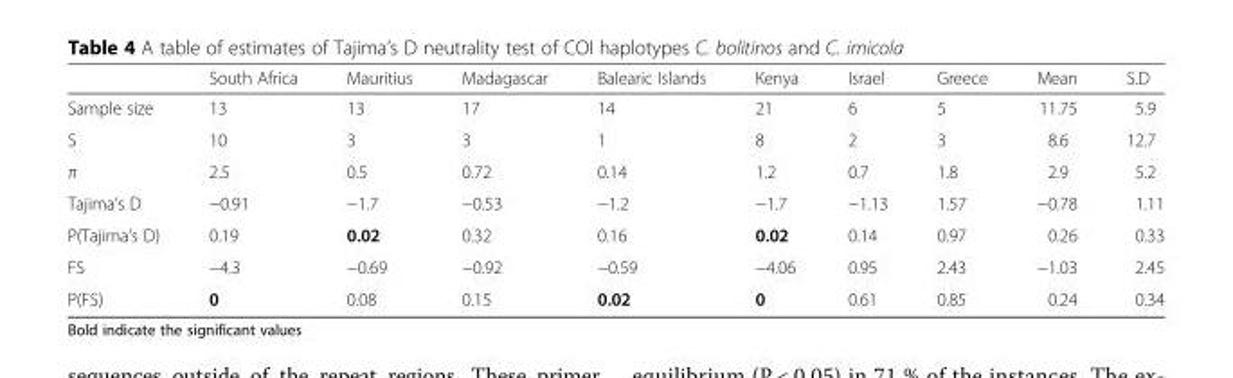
<table><thead><tr><td></td><td>South Africa</td><td>Mauritius</td><td>Madagascar</td><td>Balearic Islands</td><td>Kenya</td><td>Israel</td><td>Greece</td><td>Mean</td><td>S.D</td></tr></thead><tbody><tr><td>Sample size</td><td>13</td><td>13</td><td>17</td><td>14</td><td>21</td><td>6</td><td>5</td><td>11.75</td><td>5.9</td></tr><tr><td>S</td><td>10</td><td>3</td><td>3</td><td>1</td><td>8</td><td>2</td><td>3</td><td>8.6</td><td>12.7</td></tr><tr><td>π</td><td>2.5</td><td>0.5</td><td>0.72</td><td>0.14</td><td>1.2</td><td>0.7</td><td>1.8</td><td>2.9</td><td>5.2</td></tr><tr><td>Tajima’s D</td><td>−0.91</td><td>−1.7</td><td>−0.53</td><td>−1.2</td><td>−1.7</td><td>−1.13</td><td>1.57</td><td>−0.78</td><td>1.11</td></tr><tr><td>P(Tajima’s D)</td><td>0.19</td><td>0.02</td><td>0.32</td><td>0.16</td><td>0.02</td><td>0.14</td><td>0.97</td><td>0.26</td><td>0.33</td></tr><tr><td>FS</td><td>−4.3</td><td>−0.69</td><td>−0.92</td><td>−0.59</td><td>−4.06</td><td>0.95</td><td>2.43</td><td>−1.03</td><td>2.45</td></tr><tr><td>P(FS)</td><td>0</td><td>0.08</td><td>0.15</td><td>0.02</td><td>0</td><td>0.61</td><td>0.85</td><td>0.24</td><td>0.34</td></tr></tbody></table>